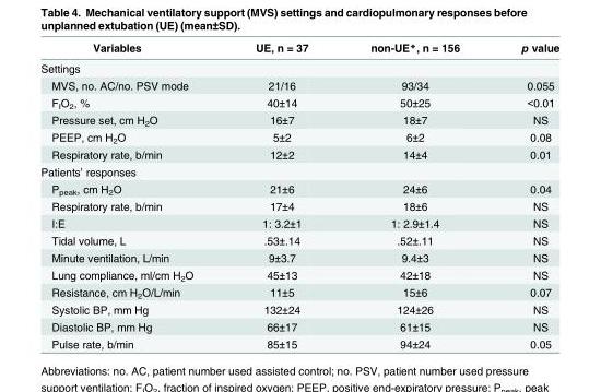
<table><thead><tr><td>Variables</td><td>UE, n = 37</td><td>non-UE*, n = 156</td><td>p value</td></tr></thead><tbody><tr><td colspan="4">Settings</td></tr><tr><td>MVS, no. AC/no. PSV mode</td><td>21/16</td><td>93/34</td><td>0.055</td></tr><tr><td>F<sub>I</sub>O<sub>2</sub>, %</td><td>40±14</td><td>50±25</td><td>&lt;0.01</td></tr><tr><td>Pressure set, cm H<sub>2</sub>O</td><td>16±7</td><td>18±7</td><td>NS</td></tr><tr><td>PEEP, cm H<sub>2</sub>O</td><td>5±2</td><td>6±2</td><td>0.08</td></tr><tr><td>Respiratory rate, b/min</td><td>12±2</td><td>14±4</td><td>0.01</td></tr><tr><td colspan="4">Patients’ responses</td></tr><tr><td>P<sub>peak</sub>, cm H<sub>2</sub>O</td><td>21±6</td><td>24±6</td><td>0.04</td></tr><tr><td>Respiratory rate, b/min</td><td>17±4</td><td>18±6</td><td>NS</td></tr><tr><td>I:E</td><td>1: 3.2±1</td><td>1: 2.9±1.4</td><td>NS</td></tr><tr><td>Tidal volume, L</td><td>.53±.14</td><td>.52±.11</td><td>NS</td></tr><tr><td>Minute ventilation, L/min</td><td>9±3.7</td><td>9.4±3</td><td>NS</td></tr><tr><td>Lung compliance, ml/cm H<sub>2</sub>O</td><td>45±13</td><td>42±18</td><td>NS</td></tr><tr><td>Resistance, cm H<sub>2</sub>O/L/min</td><td>11±5</td><td>15±6</td><td>0.07</td></tr><tr><td>Systolic BP, mm Hg</td><td>132±24</td><td>124±26</td><td>NS</td></tr><tr><td>Diastolic BP, mm Hg</td><td>66±17</td><td>61±15</td><td>NS</td></tr><tr><td>Pulse rate, b/min</td><td>85±15</td><td>94±24</td><td>0.05</td></tr></tbody></table>